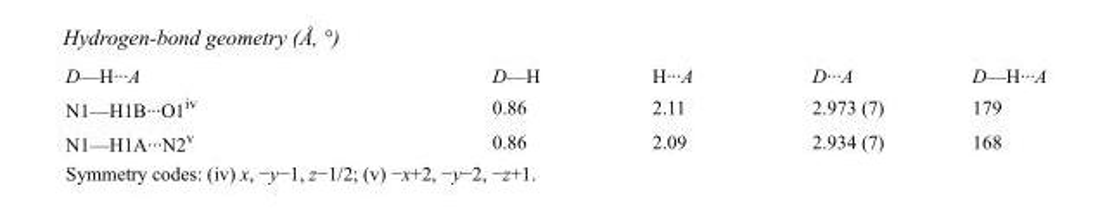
<table><tbody><tr><td>D—H···A</td><td>D—H</td><td>H···A</td><td>D···A</td><td>D—H···A</td></tr><tr><td>N1—H1B···O1<sup>iv</sup></td><td>0.86</td><td>2.11</td><td>2.973 (7)</td><td>179</td></tr><tr><td>N1—H1A···N2<sup>v</sup></td><td>0.86</td><td>2.09</td><td>2.934 (7)</td><td>168</td></tr></tbody></table>